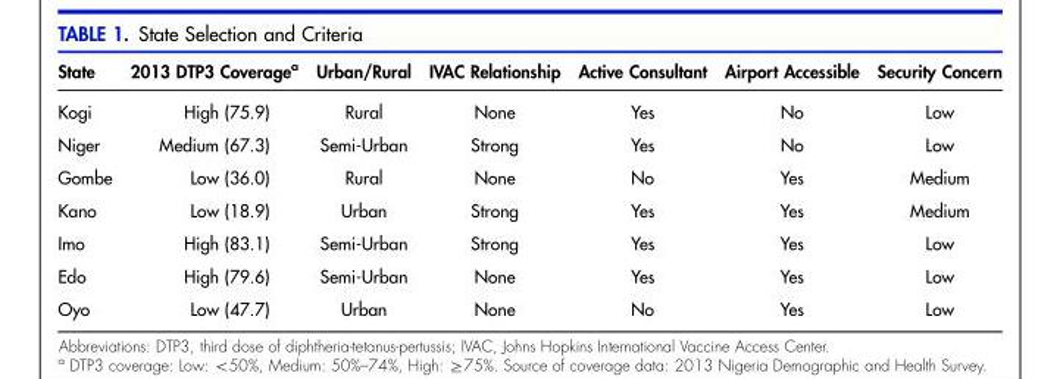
<table><thead><tr><td>State</td><td>2013 DTP3 Coverage<sup>a</sup></td><td>Urban/Rural</td><td>IVAC Relationship</td><td>Active Consultant</td><td>Airport Accessible</td><td>Security Concern</td></tr></thead><tbody><tr><td>Kogi</td><td>High (75.9)</td><td>Rural</td><td>None</td><td>Yes</td><td>No</td><td>Low</td></tr><tr><td>Niger</td><td>Medium (67.3)</td><td>Semi-Urban</td><td>Strong</td><td>Yes</td><td>No</td><td>Low</td></tr><tr><td>Gombe</td><td>Low (36.0)</td><td>Rural</td><td>None</td><td>No</td><td>Yes</td><td>Medium</td></tr><tr><td>Kano</td><td>Low (18.9)</td><td>Urban</td><td>Strong</td><td>Yes</td><td>Yes</td><td>Medium</td></tr><tr><td>Imo</td><td>High (83.1)</td><td>Semi-Urban</td><td>Strong</td><td>Yes</td><td>Yes</td><td>Low</td></tr><tr><td>Edo</td><td>High (79.6)</td><td>Semi-Urban</td><td>None</td><td>Yes</td><td>Yes</td><td>Low</td></tr><tr><td>Oyo</td><td>Low (47.7)</td><td>Urban</td><td>None</td><td>No</td><td>Yes</td><td>Low</td></tr></tbody></table>